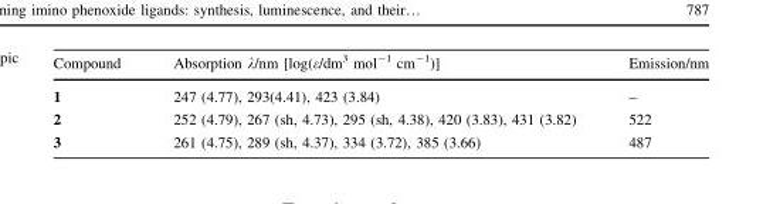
<table><thead><tr><td>Compound</td><td>Absorption λ/nm [log(ε/dm<sup>3</sup> mol<sup>-1</sup> cm<sup>-1</sup>)]</td><td>Emission/nm</td></tr></thead><tbody><tr><td>1</td><td>247 (4.77), 293(4.41), 423 (3.84)</td><td>–</td></tr><tr><td>2</td><td>252 (4.79), 267 (sh, 4.73), 295 (sh, 4.38), 420 (3.83), 431 (3.82)</td><td>522</td></tr><tr><td>3</td><td>261 (4.75), 289 (sh, 4.37), 334 (3.72), 385 (3.66)</td><td>487</td></tr></tbody></table>